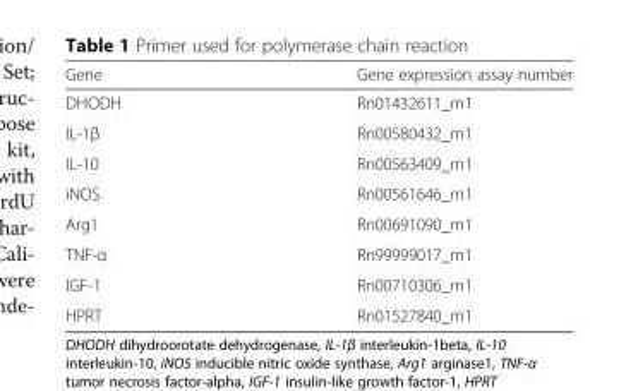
<table><thead><tr><td>Gene</td><td>Gene expression assay number</td></tr></thead><tbody><tr><td>DHODH</td><td>Rn01432611_m1</td></tr><tr><td>IL-1β</td><td>Rn00580432_m1</td></tr><tr><td>IL-10</td><td>Rn00563409_m1</td></tr><tr><td>iNOS</td><td>Rn00561646_m1</td></tr><tr><td>Arg1</td><td>Rn00691090_m1</td></tr><tr><td>TNF-α</td><td>Rn99999017_m1</td></tr><tr><td>IGF-1</td><td>Rn00710306_m1</td></tr><tr><td>HPRT</td><td>Rn01527840_m1</td></tr></tbody></table>